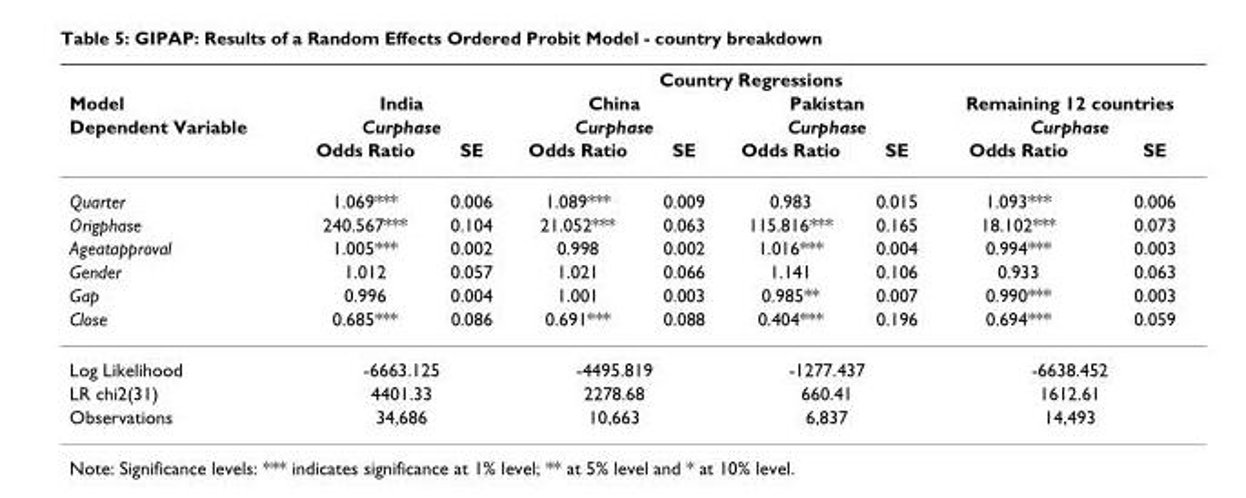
<table><thead><tr><td rowspan="4">Model Dependent Variable</td><td colspan="8">Country Regressions</td></tr><tr><td rowspan="2" colspan="2">India Curphase</td><td rowspan="2" colspan="2">China Curphase</td><td rowspan="2" colspan="2">Pakistan Curphase</td><td rowspan="2" colspan="2">Remaining 12 countries Curphase</td></tr><tr></tr><tr><td>Odds Ratio</td><td>SE</td><td>Odds Ratio</td><td>SE</td><td>Odds Ratio</td><td>SE</td><td>Odds Ratio</td><td>SE</td></tr></thead><tbody><tr><td>Quarter</td><td>1.069***</td><td>0.006</td><td>1.089***</td><td>0.009</td><td>0.983</td><td>0.015</td><td>1.093***</td><td>0.006</td></tr><tr><td>Origphase</td><td>240.567***</td><td>0.104</td><td>21.052***</td><td>0.063</td><td>115.816***</td><td>0.165</td><td>18.102***</td><td>0.073</td></tr><tr><td>Ageatapproval</td><td>1.005***</td><td>0.002</td><td>0.998</td><td>0.002</td><td>1.016***</td><td>0.004</td><td>0.994***</td><td>0.003</td></tr><tr><td>Gender</td><td>1.012</td><td>0.057</td><td>1.021</td><td>0.066</td><td>1.141</td><td>0.106</td><td>0.933</td><td>0.063</td></tr><tr><td>Gap</td><td>0.996</td><td>0.004</td><td>1.001</td><td>0.003</td><td>0.985**</td><td>0.007</td><td>0.990***</td><td>0.003</td></tr><tr><td>Close</td><td>0.685***</td><td>0.086</td><td>0.691***</td><td>0.088</td><td>0.404***</td><td>0.196</td><td>0.694***</td><td>0.059</td></tr><tr><td>Log Likelihood</td><td colspan="2">-6663.125</td><td colspan="2">-4495.819</td><td colspan="2">-1277.437</td><td colspan="2">-6638.452</td></tr><tr><td>LR chi2(31)</td><td colspan="2">4401.33</td><td colspan="2">2278.68</td><td colspan="2">660.41</td><td colspan="2">1612.61</td></tr><tr><td>Observations</td><td colspan="2">34,686</td><td colspan="2">10,663</td><td colspan="2">6,837</td><td colspan="2">14,493</td></tr></tbody></table>